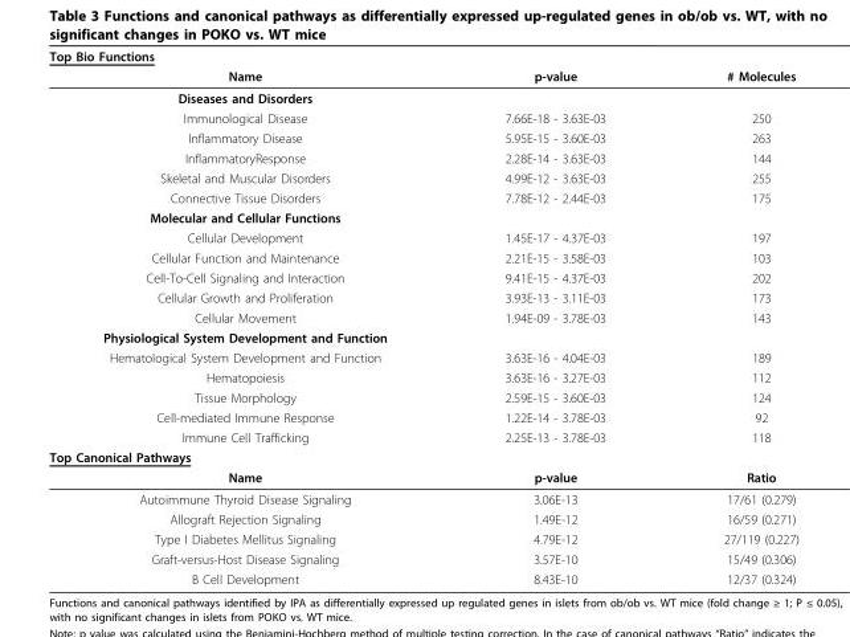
<table><thead><tr><td rowspan="2">Top Bio Functions Name</td><td rowspan="2">p-value</td><td rowspan="2"># Molecules</td></tr><tr></tr></thead><tbody><tr><td colspan="3">Diseases and Disorders</td></tr><tr><td>Immunological Disease</td><td>7.66E-18 - 3.63E-03</td><td>250</td></tr><tr><td>Inflammatory Disease</td><td>5.95E-15 - 3.60E-03</td><td>263</td></tr><tr><td>InflammatoryResponse</td><td>2.28E-14 - 3.63E-03</td><td>144</td></tr><tr><td>Skeletal and Muscular Disorders</td><td>4.99E-12 - 3.63E-03</td><td>255</td></tr><tr><td>Connective Tissue Disorders</td><td>7.78E-12 - 2.44E-03</td><td>175</td></tr><tr><td colspan="3">Molecular and Cellular Functions</td></tr><tr><td>Cellular Development</td><td>1.45E-17 - 4.37E-03</td><td>197</td></tr><tr><td>Cellular Function and Maintenance</td><td>2.21E-15 - 3.58E-03</td><td>103</td></tr><tr><td>Cell-To-Cell Signaling and Interaction</td><td>9.41E-15 - 4.37E-03</td><td>202</td></tr><tr><td>Cellular Growth and Proliferation</td><td>3.93E-13 - 3.11E-03</td><td>173</td></tr><tr><td>Cellular Movement</td><td>1.94E-09 - 3.78E-03</td><td>143</td></tr><tr><td colspan="3">Physiological System Development and Function</td></tr><tr><td>Hematological System Development and Function</td><td>3.63E-16 - 4.04E-03</td><td>189</td></tr><tr><td>Hematopoiesis</td><td>3.63E-16 - 3.27E-03</td><td>112</td></tr><tr><td>Tissue Morphology</td><td>2.59E-15 - 3.60E-03</td><td>124</td></tr><tr><td>Cell-mediated Immune Response</td><td>1.22E-14 - 3.78E-03</td><td>92</td></tr><tr><td>Immune Cell Trafficking</td><td>2.25E-13 - 3.78E-03</td><td>118</td></tr><tr><td colspan="3">Top Canonical Pathways</td></tr><tr><td>Name</td><td>p-value</td><td>Ratio</td></tr><tr><td>Autoimmune Thyroid Disease Signaling</td><td>3.06E-13</td><td>17/61 (0.279)</td></tr><tr><td>Allograft Rejection Signaling</td><td>1.49E-12</td><td>16/59 (0.271)</td></tr><tr><td>Type I Diabetes Mellitus Signaling</td><td>4.79E-12</td><td>27/119 (0.227)</td></tr><tr><td>Graft-versus-Host Disease Signaling</td><td>3.57E-10</td><td>15/49 (0.306)</td></tr><tr><td>B Cell Development</td><td>8.43E-10</td><td>12/37 (0.324)</td></tr></tbody></table>